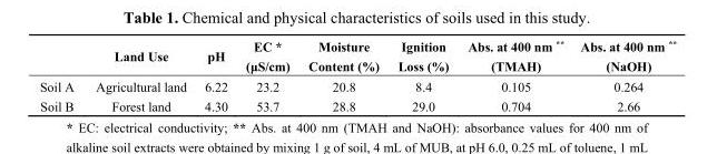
<table><thead><tr><td></td><td>Land Use</td><td>pH</td><td>EC * (μS/cm)</td><td>Moisture Content (%)</td><td>Ignition Loss (%)</td><td>Abs. at 400 nm ** (TMAH)</td><td>Abs. at 400 nm ** (NaOH)</td></tr></thead><tbody><tr><td>Soil A</td><td>Agricultural land</td><td>6.22</td><td>23.2</td><td>20.8</td><td>8.4</td><td>0.105</td><td>0.264</td></tr><tr><td>Soil B</td><td>Forest land</td><td>4.30</td><td>53.7</td><td>28.8</td><td>29.0</td><td>0.704</td><td>2.66</td></tr></tbody></table>